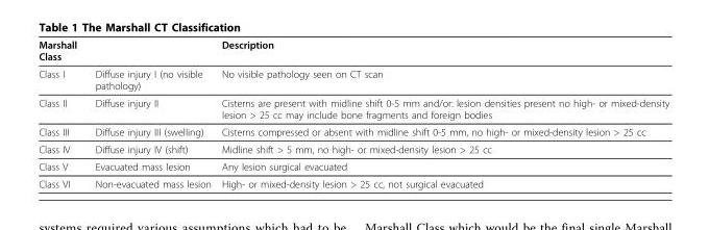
<table><thead><tr><td>Marshall Class</td><td></td><td>Description</td></tr></thead><tbody><tr><td>Class I</td><td>Diffuse injury I (no visible pathology)</td><td>No visible pathology seen on CT scan</td></tr><tr><td>Class II</td><td>Diffuse injury II</td><td>Cisterns are present with midline shift 0-5 mm and/or: lesion densities present no high- or mixed-density lesion &gt; 25 cc may include bone fragments and foreign bodies</td></tr><tr><td>Class III</td><td>Diffuse injury III (swelling)</td><td>Cisterns compressed or absent with midline shift 0-5 mm, no high- or mixed-density lesion &gt; 25 cc</td></tr><tr><td>Class IV</td><td>Diffuse injury IV (shift)</td><td>Midline shift &gt; 5 mm, no high- or mixed-density lesion &gt; 25 cc</td></tr><tr><td>Class V</td><td>Evacuated mass lesion</td><td>Any lesion surgical evacuated</td></tr><tr><td>Class VI</td><td>Non-evacuated mass lesion</td><td>High- or mixed-density lesion &gt; 25 cc, not surgical evacuated</td></tr></tbody></table>